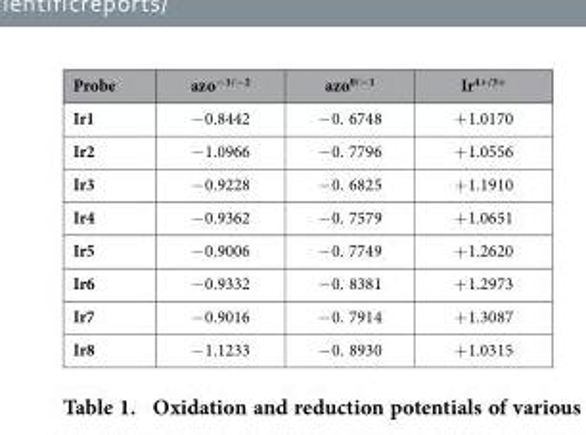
<table><thead><tr><td>Probe</td><td>azo<sup>−1/−2</sup></td><td>azo<sup>0/−1</sup></td><td>Ir<sup>4+/3+</sup></td></tr></thead><tbody><tr><td>Ir1</td><td>− 0.8442</td><td>− 0. 6748</td><td>+ 1.0170</td></tr><tr><td>Ir2</td><td>− 1.0966</td><td>− 0. 7796</td><td>+ 1.0556</td></tr><tr><td>Ir3</td><td>− 0.9228</td><td>− 0. 6825</td><td>+ 1.1910</td></tr><tr><td>Ir4</td><td>− 0.9362</td><td>− 0. 7579</td><td>+ 1.0651</td></tr><tr><td>Ir5</td><td>− 0.9006</td><td>− 0. 7749</td><td>+ 1.2620</td></tr><tr><td>Ir6</td><td>− 0.9332</td><td>− 0. 8381</td><td>+ 1.2973</td></tr><tr><td>Ir7</td><td>− 0.9016</td><td>− 0. 7914</td><td>+ 1.3087</td></tr><tr><td>Ir8</td><td>− 1.1233</td><td>− 0. 8930</td><td>+ 1.0315</td></tr></tbody></table>